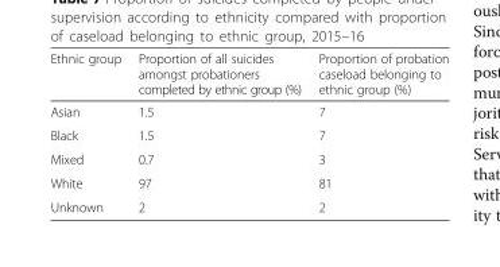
<table><thead><tr><td>Ethnic group</td><td>Proportion of all suicides amongst probationers completed by ethnic group (%)</td><td>Proportion of probation caseload belonging to ethnic group (%)</td></tr></thead><tbody><tr><td>Asian</td><td>1.5</td><td>7</td></tr><tr><td>Black</td><td>1.5</td><td>7</td></tr><tr><td>Mixed</td><td>0.7</td><td>3</td></tr><tr><td>White</td><td>97</td><td>81</td></tr><tr><td>Unknown</td><td>2</td><td>2</td></tr></tbody></table>